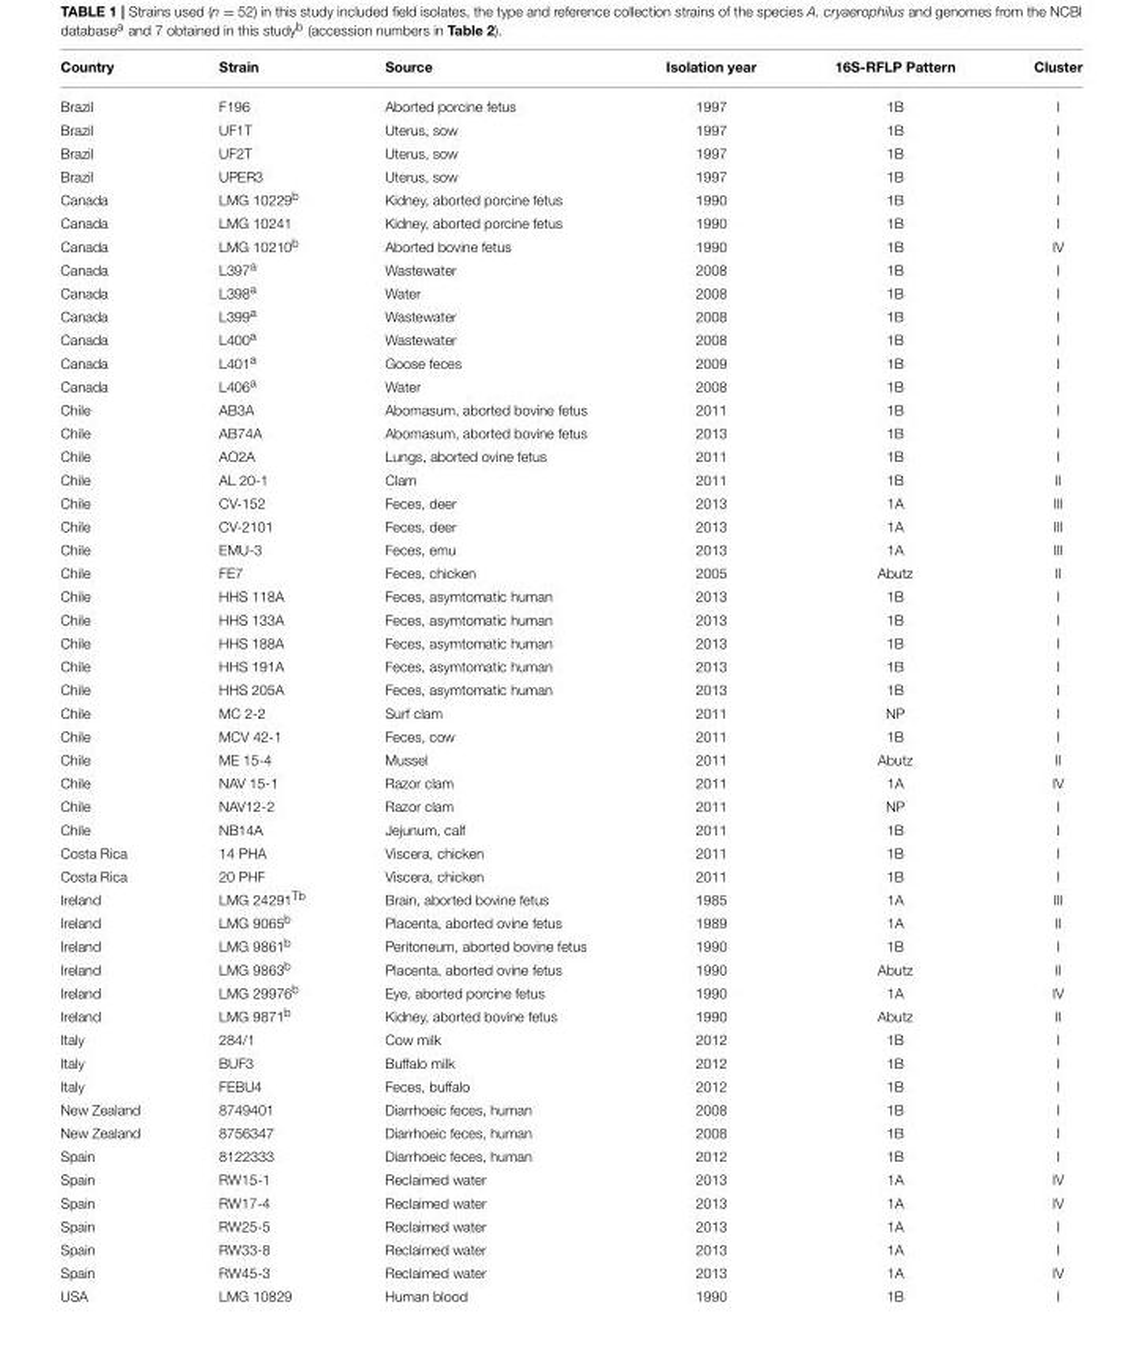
<table><thead><tr><td>Country</td><td>Strain</td><td>Source</td><td>Isolation year</td><td>16S-RFLP Pattern</td><td>Cluster</td></tr></thead><tbody><tr><td>Brazil</td><td>F196</td><td>Aborted porcine fetus</td><td>1997</td><td>1B</td><td>I</td></tr><tr><td>Brazil</td><td>UF1T</td><td>Uterus, sow</td><td>1997</td><td>1B</td><td>I</td></tr><tr><td>Brazil</td><td>UF2T</td><td>Uterus, sow</td><td>1997</td><td>1B</td><td>I</td></tr><tr><td>Brazil</td><td>UPER3</td><td>Uterus, sow</td><td>1997</td><td>1B</td><td>I</td></tr><tr><td>Canada</td><td>LMG 10229<sup>b</sup></td><td>Kidney, aborted porcine fetus</td><td>1990</td><td>1B</td><td>I</td></tr><tr><td>Canada</td><td>LMG 10241</td><td>Kidney, aborted porcine fetus</td><td>1990</td><td>1B</td><td>I</td></tr><tr><td>Canada</td><td>LMG 10210<sup>b</sup></td><td>Aborted bovine fetus</td><td>1990</td><td>1B</td><td>IV</td></tr><tr><td>Canada</td><td>L397<sup>a</sup></td><td>Wastewater</td><td>2008</td><td>1B</td><td>I</td></tr><tr><td>Canada</td><td>L398<sup>a</sup></td><td>Water</td><td>2008</td><td>1B</td><td>I</td></tr><tr><td>Canada</td><td>L399<sup>a</sup></td><td>Wastewater</td><td>2008</td><td>1B</td><td>I</td></tr><tr><td>Canada</td><td>L400<sup>a</sup></td><td>Wastewater</td><td>2008</td><td>1B</td><td>I</td></tr><tr><td>Canada</td><td>L401<sup>a</sup></td><td>Goose feces</td><td>2009</td><td>1B</td><td>I</td></tr><tr><td>Canada</td><td>L406<sup>a</sup></td><td>Water</td><td>2008</td><td>1B</td><td>I</td></tr><tr><td>Chile</td><td>AB3A</td><td>Abomasum, aborted bovine fetus</td><td>2011</td><td>1B</td><td>I</td></tr><tr><td>Chile</td><td>AB74A</td><td>Abomasum, aborted bovine fetus</td><td>2013</td><td>1B</td><td>I</td></tr><tr><td>Chile</td><td>AO2A</td><td>Lungs, aborted ovine fetus</td><td>2011</td><td>1B</td><td>I</td></tr><tr><td>Chile</td><td>AL 20-1</td><td>Clam</td><td>2011</td><td>1B</td><td>II</td></tr><tr><td>Chile</td><td>CV-152</td><td>Feces, deer</td><td>2013</td><td>1A</td><td>III</td></tr><tr><td>Chile</td><td>CV-2101</td><td>Feces, deer</td><td>2013</td><td>1A</td><td>III</td></tr><tr><td>Chile</td><td>EMU-3</td><td>Feces, emu</td><td>2013</td><td>1A</td><td>III</td></tr><tr><td>Chile</td><td>FE7</td><td>Feces, chicken</td><td>2005</td><td>Abutz</td><td>II</td></tr><tr><td>Chile</td><td>HHS 118A</td><td>Feces, asymtomatic human</td><td>2013</td><td>1B</td><td>I</td></tr><tr><td>Chile</td><td>HHS 133A</td><td>Feces, asymtomatic human</td><td>2013</td><td>1B</td><td>I</td></tr><tr><td>Chile</td><td>HHS 188A</td><td>Feces, asymtomatic human</td><td>2013</td><td>1B</td><td>I</td></tr><tr><td>Chile</td><td>HHS 191A</td><td>Feces, asymtomatic human</td><td>2013</td><td>1B</td><td>I</td></tr><tr><td>Chile</td><td>HHS 205A</td><td>Feces, asymtomatic human</td><td>2013</td><td>1B</td><td>I</td></tr><tr><td>Chile</td><td>MC 2-2</td><td>Surf clam</td><td>2011</td><td>NP</td><td>I</td></tr><tr><td>Chile</td><td>MCV 42-1</td><td>Feces, cow</td><td>2011</td><td>1B</td><td>I</td></tr><tr><td>Chile</td><td>ME 15-4</td><td>Mussel</td><td>2011</td><td>Abutz</td><td>II</td></tr><tr><td>Chile</td><td>NAV 15-1</td><td>Razor clam</td><td>2011</td><td>1A</td><td>IV</td></tr><tr><td>Chile</td><td>NAV12-2</td><td>Razor clam</td><td>2011</td><td>NP</td><td>I</td></tr><tr><td>Chile</td><td>NB14A</td><td>Jejunum, calf</td><td>2011</td><td>1B</td><td>I</td></tr><tr><td>Costa Rica</td><td>14 PHA</td><td>Viscera, chicken</td><td>2011</td><td>1B</td><td>I</td></tr><tr><td>Costa Rica</td><td>20 PHF</td><td>Viscera, chicken</td><td>2011</td><td>1B</td><td>I</td></tr><tr><td>Ireland</td><td>LMG 24291<sup>Tb</sup></td><td>Brain, aborted bovine fetus</td><td>1985</td><td>1A</td><td>III</td></tr><tr><td>Ireland</td><td>LMG 9065<sup>b</sup></td><td>Placenta, aborted ovine fetus</td><td>1989</td><td>1A</td><td>II</td></tr><tr><td>Ireland</td><td>LMG 9861<sup>b</sup></td><td>Peritoneum, aborted bovine fetus</td><td>1990</td><td>1B</td><td>I</td></tr><tr><td>Ireland</td><td>LMG 9863<sup>b</sup></td><td>Placenta, aborted ovine fetus</td><td>1990</td><td>Abutz</td><td>II</td></tr><tr><td>Ireland</td><td>LMG 29976<sup>b</sup></td><td>Eye, aborted porcine fetus</td><td>1990</td><td>1A</td><td>IV</td></tr><tr><td>Ireland</td><td>LMG 9871<sup>b</sup></td><td>Kidney, aborted bovine fetus</td><td>1990</td><td>Abutz</td><td>II</td></tr><tr><td>Italy</td><td>284/1</td><td>Cow milk</td><td>2012</td><td>1B</td><td>I</td></tr><tr><td>Italy</td><td>BUF3</td><td>Buffalo milk</td><td>2012</td><td>1B</td><td>I</td></tr><tr><td>Italy</td><td>FEBU4</td><td>Feces, buffalo</td><td>2012</td><td>1B</td><td>I</td></tr><tr><td>New Zealand</td><td>8749401</td><td>Diarrhoeic feces, human</td><td>2008</td><td>1B</td><td>I</td></tr><tr><td>New Zealand</td><td>8756347</td><td>Diarrhoeic feces, human</td><td>2008</td><td>1B</td><td>I</td></tr><tr><td>Spain</td><td>8122333</td><td>Diarrhoeic feces, human</td><td>2012</td><td>1B</td><td>I</td></tr><tr><td>Spain</td><td>RW15-1</td><td>Reclaimed water</td><td>2013</td><td>1A</td><td>IV</td></tr><tr><td>Spain</td><td>RW17-4</td><td>Reclaimed water</td><td>2013</td><td>1A</td><td>IV</td></tr><tr><td>Spain</td><td>RW25-5</td><td>Reclaimed water</td><td>2013</td><td>1A</td><td>I</td></tr><tr><td>Spain</td><td>RW33-8</td><td>Reclaimed water</td><td>2013</td><td>1A</td><td>I</td></tr><tr><td>Spain</td><td>RW45-3</td><td>Reclaimed water</td><td>2013</td><td>1A</td><td>IV</td></tr><tr><td>USA</td><td>LMG 10829</td><td>Human blood</td><td>1990</td><td>1B</td><td>I</td></tr></tbody></table>